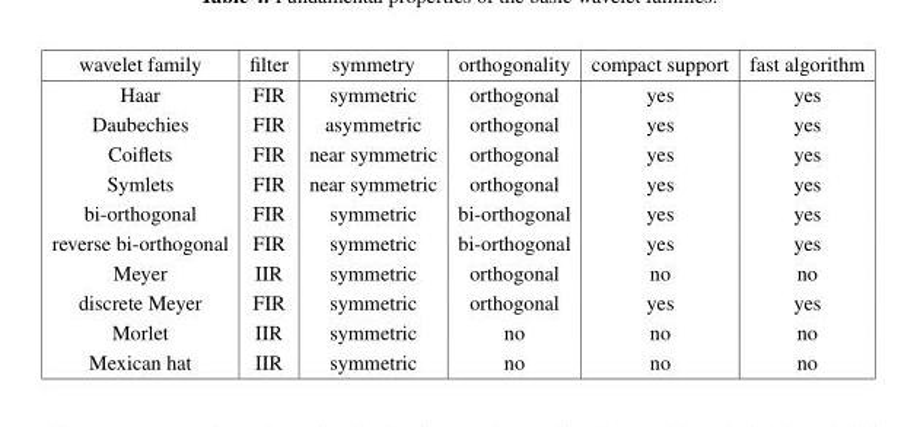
<table><thead><tr><td>wavelet family</td><td>filter</td><td>symmetry</td><td>orthogonality</td><td>compact support</td><td>fast algorithm</td></tr></thead><tbody><tr><td>Haar</td><td>FIR</td><td>symmetric</td><td>orthogonal</td><td>yes</td><td>yes</td></tr><tr><td>Daubechies</td><td>FIR</td><td>asymmetric</td><td>orthogonal</td><td>yes</td><td>yes</td></tr><tr><td>Coiflets</td><td>FIR</td><td>near symmetric</td><td>orthogonal</td><td>yes</td><td>yes</td></tr><tr><td>Symlets</td><td>FIR</td><td>near symmetric</td><td>orthogonal</td><td>yes</td><td>yes</td></tr><tr><td>bi-orthogonal</td><td>FIR</td><td>symmetric</td><td>bi-orthogonal</td><td>yes</td><td>yes</td></tr><tr><td>reverse bi-orthogonal</td><td>FIR</td><td>symmetric</td><td>bi-orthogonal</td><td>yes</td><td>yes</td></tr><tr><td>Meyer</td><td>IIR</td><td>symmetric</td><td>orthogonal</td><td>no</td><td>no</td></tr><tr><td>discrete Meyer</td><td>FIR</td><td>symmetric</td><td>orthogonal</td><td>yes</td><td>yes</td></tr><tr><td>Morlet</td><td>IIR</td><td>symmetric</td><td>no</td><td>no</td><td>no</td></tr><tr><td>Mexican hat</td><td>IIR</td><td>symmetric</td><td>no</td><td>no</td><td>no</td></tr></tbody></table>